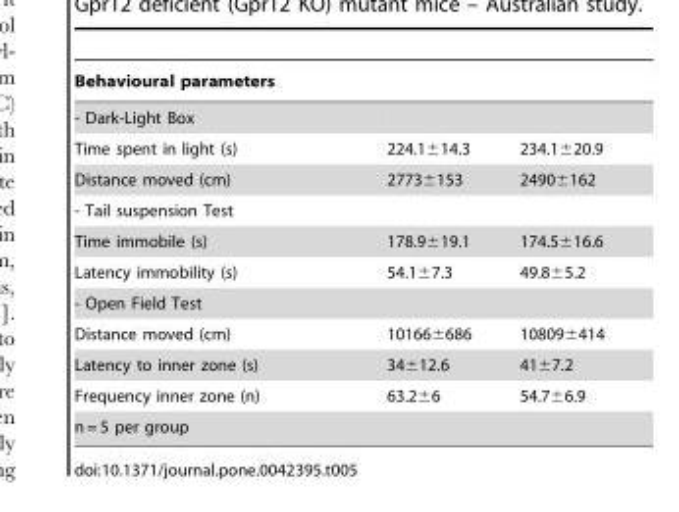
<table><thead><tr><td>Behavioural parameters</td><td></td><td></td></tr></thead><tbody><tr><td colspan="3">- Dark-Light Box</td></tr><tr><td>Time spent in light (s)</td><td>224.1±14.3</td><td>234.1±20.9</td></tr><tr><td>Distance moved (cm)</td><td>2773±153</td><td>2490±162</td></tr><tr><td colspan="3">- Tail suspension Test</td></tr><tr><td>Time immobile (s)</td><td>178.9±19.1</td><td>174.5±16.6</td></tr><tr><td>Latency immobility (s)</td><td>54.1±7.3</td><td>49.8±5.2</td></tr><tr><td colspan="3">- Open Field Test</td></tr><tr><td>Distance moved (cm)</td><td>10166±686</td><td>10809±414</td></tr><tr><td>Latency to inner zone (s)</td><td>34±12.6</td><td>41±7.2</td></tr><tr><td>Frequency inner zone (n)</td><td>63.2±6</td><td>54.7±6.9</td></tr><tr><td>n = 5 per group</td><td></td><td></td></tr></tbody></table>